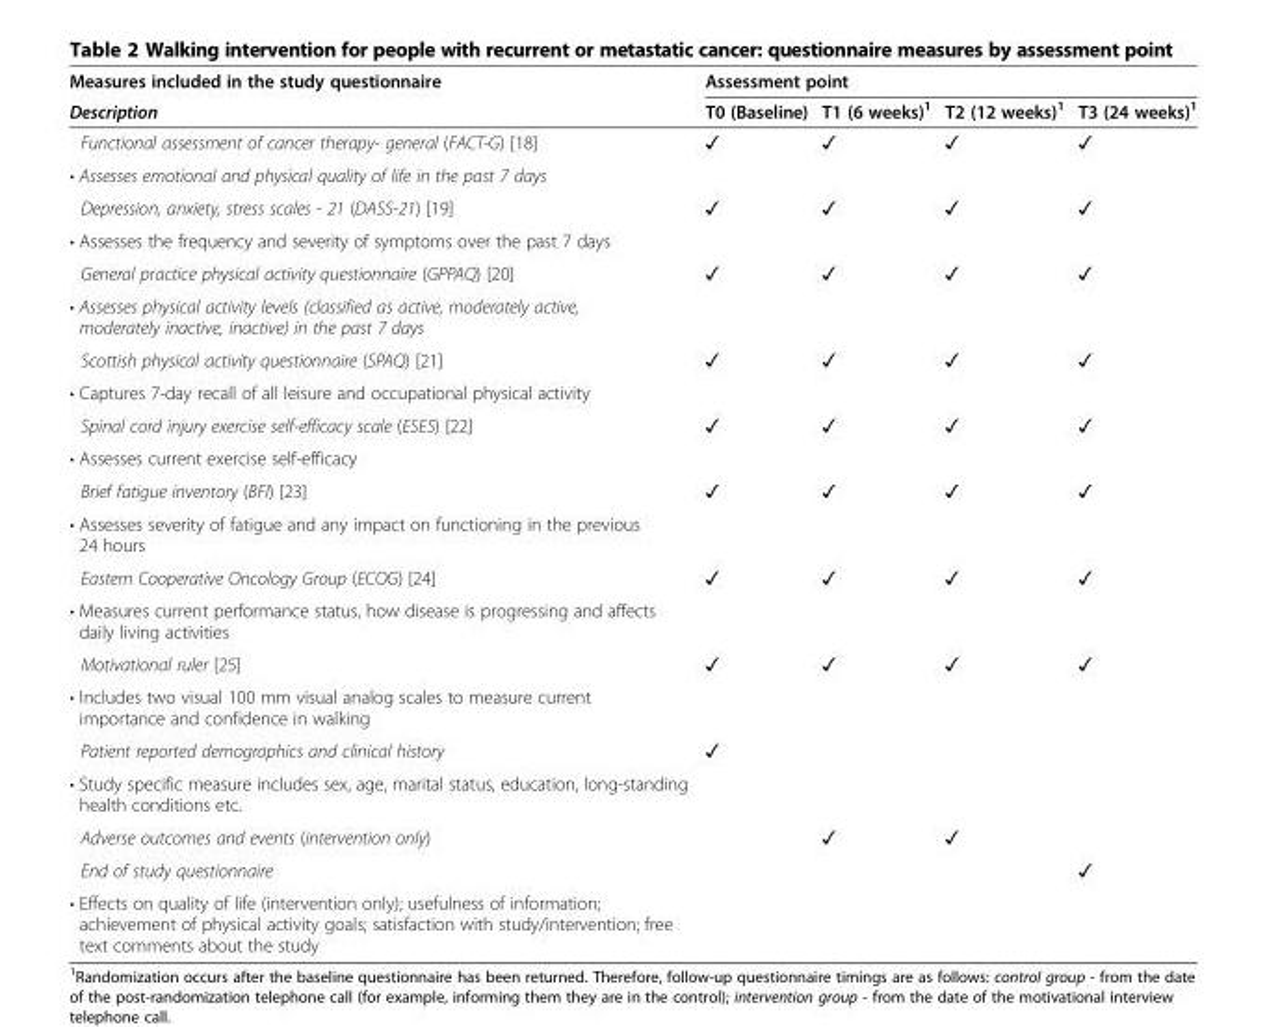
<table><thead><tr><td rowspan="2">Measures included in the study questionnaire Description</td><td colspan="4">Assessment point</td></tr><tr><td>T0 (Baseline)</td><td>T1 (6 weeks)<sup>1</sup></td><td>T2 (12 weeks)<sup>1</sup></td><td>T3 (24 weeks)<sup>1</sup></td></tr></thead><tbody><tr><td>Functional assessment of cancer therapy- general (FACT-G) [18]</td><td rowspan="2">✓</td><td rowspan="2">✓</td><td rowspan="2">✓</td><td rowspan="2">✓</td></tr><tr><td>• Assesses emotional and physical quality of life in the past 7 days</td></tr><tr><td>Depression, anxiety, stress scales - 21 (DASS-21) [19]</td><td rowspan="2">✓</td><td rowspan="2">✓</td><td rowspan="2">✓</td><td rowspan="2">✓</td></tr><tr><td>• Assesses the frequency and severity of symptoms over the past 7 days</td></tr><tr><td>General practice physical activity questionnaire (GPPAQ) [20]</td><td rowspan="2">✓</td><td rowspan="2">✓</td><td rowspan="2">✓</td><td rowspan="2">✓</td></tr><tr><td>• Assesses physical activity levels (classified as active, moderately active, moderately inactive, inactive) in the past 7 days</td></tr><tr><td>Scottish physical activity questionnaire (SPAQ) [21]</td><td rowspan="2">✓</td><td rowspan="2">✓</td><td rowspan="2">✓</td><td rowspan="2">✓</td></tr><tr><td>• Captures 7-day recall of all leisure and occupational physical activity</td></tr><tr><td>Spinal cord injury exercise self-efficacy scale (ESES) [22]</td><td rowspan="2">✓</td><td rowspan="2">✓</td><td rowspan="2">✓</td><td rowspan="2">✓</td></tr><tr><td>• Assesses current exercise self-efficacy</td></tr><tr><td>Brief fatigue inventory (BFI) [23]</td><td rowspan="2">✓</td><td rowspan="2">✓</td><td rowspan="2">✓</td><td rowspan="2">✓</td></tr><tr><td>• Assesses severity of fatigue and any impact on functioning in the previous 24 hours</td></tr><tr><td>Eastern Cooperative Oncology Group (ECOG) [24]</td><td rowspan="2">✓</td><td rowspan="2">✓</td><td rowspan="2">✓</td><td rowspan="2">✓</td></tr><tr><td>• Measures current performance status, how disease is progressing and affects daily living activities</td></tr><tr><td>Motivational ruler [25]</td><td rowspan="2">✓</td><td rowspan="2">✓</td><td rowspan="2">✓</td><td rowspan="2">✓</td></tr><tr><td>• Includes two visual 100 mm visual analog scales to measure current importance and confidence in walking</td></tr><tr><td>Patient reported demographics and clinical history</td><td rowspan="2">✓</td><td rowspan="2"></td><td rowspan="2"></td><td rowspan="2"></td></tr><tr><td>• Study specific measure includes sex, age, marital status, education, long-standing health conditions etc.</td></tr><tr><td>Adverse outcomes and events (intervention only)</td><td></td><td>✓</td><td>✓</td><td></td></tr><tr><td>End of study questionnaire</td><td rowspan="2"></td><td rowspan="2"></td><td rowspan="2"></td><td rowspan="2">✓</td></tr><tr><td>• Effects on quality of life (intervention only); usefulness of information; achievement of physical activity goals; satisfaction with study/intervention; free text comments about the study</td></tr></tbody></table>